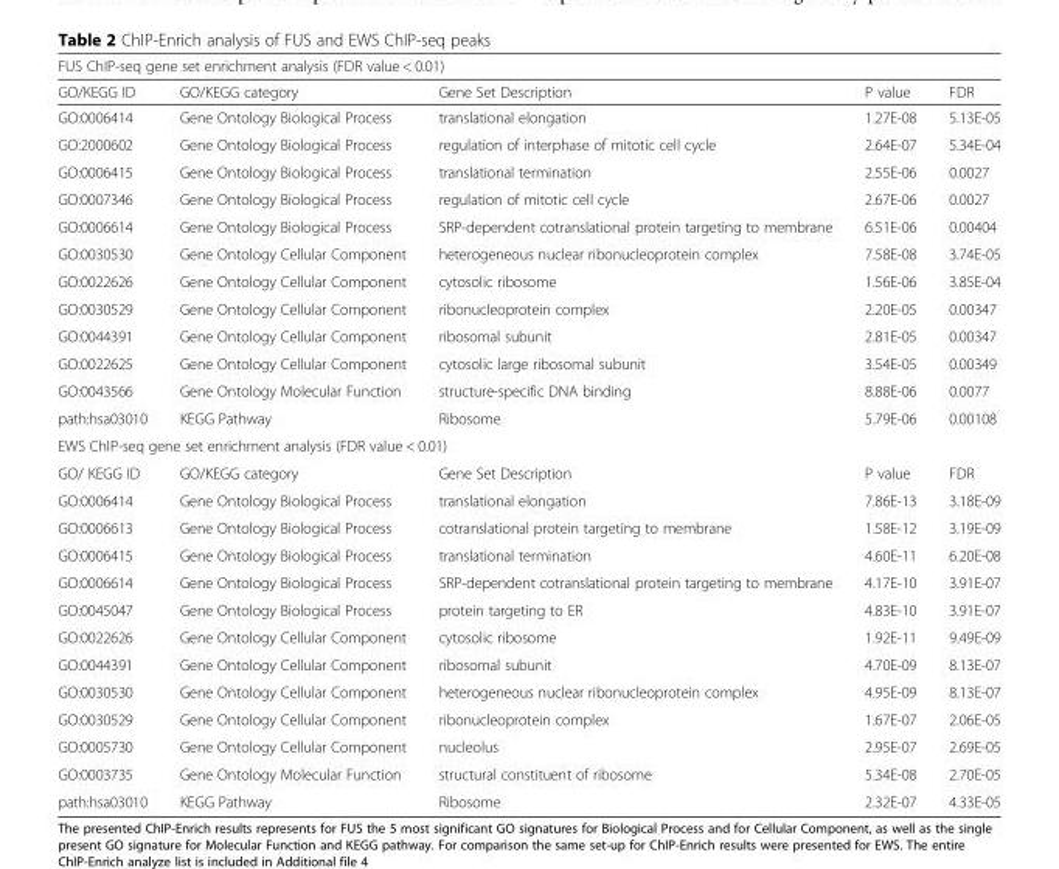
<table><thead><tr><td colspan="5">FUS ChIP-seq gene set enrichment analysis (FDR value &lt; 0.01)</td></tr><tr><td>GO/KEGG ID</td><td>GO/KEGG category</td><td>Gene Set Description</td><td>P value</td><td>FDR</td></tr></thead><tbody><tr><td>GO:0006414</td><td>Gene Ontology Biological Process</td><td>translational elongation</td><td>1.27E-08</td><td>5.13E-05</td></tr><tr><td>GO:2000602</td><td>Gene Ontology Biological Process</td><td>regulation of interphase of mitotic cell cycle</td><td>2.64E-07</td><td>5.34E-04</td></tr><tr><td>GO:0006415</td><td>Gene Ontology Biological Process</td><td>translational termination</td><td>2.55E-06</td><td>0.0027</td></tr><tr><td>GO:0007346</td><td>Gene Ontology Biological Process</td><td>regulation of mitotic cell cycle</td><td>2.67E-06</td><td>0.0027</td></tr><tr><td>GO:0006614</td><td>Gene Ontology Biological Process</td><td>SRP-dependent cotranslational protein targeting to membrane</td><td>6.51E-06</td><td>0.00404</td></tr><tr><td>GO:0030530</td><td>Gene Ontology Cellular Component</td><td>heterogeneous nuclear ribonucleoprotein complex</td><td>7.58E-08</td><td>3.74E-05</td></tr><tr><td>GO:0022626</td><td>Gene Ontology Cellular Component</td><td>cytosolic ribosome</td><td>1.56E-06</td><td>3.85E-04</td></tr><tr><td>GO:0030529</td><td>Gene Ontology Cellular Component</td><td>ribonucleoprotein complex</td><td>2.20E-05</td><td>0.00347</td></tr><tr><td>GO:0044391</td><td>Gene Ontology Cellular Component</td><td>ribosomal subunit</td><td>2.81E-05</td><td>0.00347</td></tr><tr><td>GO:0022625</td><td>Gene Ontology Cellular Component</td><td>cytosolic large ribosomal subunit</td><td>3.54E-05</td><td>0.00349</td></tr><tr><td>GO:0043566</td><td>Gene Ontology Molecular Function</td><td>structure-specific DNA binding</td><td>8.88E-06</td><td>0.0077</td></tr><tr><td>path:hsa03010</td><td>KEGG Pathway</td><td>Ribosome</td><td>5.79E-06</td><td>0.00108</td></tr><tr><td colspan="5">EWS ChIP-seq gene set enrichment analysis (FDR value &lt; 0.01)</td></tr><tr><td>GO/ KEGG ID</td><td>GO/KEGG category</td><td>Gene Set Description</td><td>P value</td><td>FDR</td></tr><tr><td>GO:0006414</td><td>Gene Ontology Biological Process</td><td>translational elongation</td><td>7.86E-13</td><td>3.18E-09</td></tr><tr><td>GO:0006613</td><td>Gene Ontology Biological Process</td><td>cotranslational protein targeting to membrane</td><td>1.58E-12</td><td>3.19E-09</td></tr><tr><td>GO:0006415</td><td>Gene Ontology Biological Process</td><td>translational termination</td><td>4.60E-11</td><td>6.20E-08</td></tr><tr><td>GO:0006614</td><td>Gene Ontology Biological Process</td><td>SRP-dependent cotranslational protein targeting to membrane</td><td>4.17E-10</td><td>3.91E-07</td></tr><tr><td>GO:0045047</td><td>Gene Ontology Biological Process</td><td>protein targeting to ER</td><td>4.83E-10</td><td>3.91E-07</td></tr><tr><td>GO:0022626</td><td>Gene Ontology Cellular Component</td><td>cytosolic ribosome</td><td>1.92E-11</td><td>9.49E-09</td></tr><tr><td>GO:0044391</td><td>Gene Ontology Cellular Component</td><td>ribosomal subunit</td><td>4.70E-09</td><td>8.13E-07</td></tr><tr><td>GO:0030530</td><td>Gene Ontology Cellular Component</td><td>heterogeneous nuclear ribonucleoprotein complex</td><td>4.95E-09</td><td>8.13E-07</td></tr><tr><td>GO:0030529</td><td>Gene Ontology Cellular Component</td><td>ribonucleoprotein complex</td><td>1.67E-07</td><td>2.06E-05</td></tr><tr><td>GO:0005730</td><td>Gene Ontology Cellular Component</td><td>nucleolus</td><td>2.95E-07</td><td>2.69E-05</td></tr><tr><td>GO:0003735</td><td>Gene Ontology Molecular Function</td><td>structural constituent of ribosome</td><td>5.34E-08</td><td>2.70E-05</td></tr><tr><td>path:hsa03010</td><td>KEGG Pathway</td><td>Ribosome</td><td>2.32E-07</td><td>4.33E-05</td></tr></tbody></table>